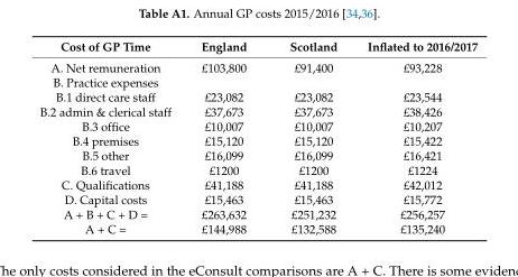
<table><thead><tr><td>Cost of GP Time</td><td>England</td><td>Scotland</td><td>Inflated to 2016/2017</td></tr></thead><tbody><tr><td>A. Net remuneration</td><td>£103,800</td><td>£91,400</td><td>£93,228</td></tr><tr><td colspan="4">B. Practice expenses</td></tr><tr><td>B.1 direct care staff</td><td>£23,082</td><td>£23,082</td><td>£23,544</td></tr><tr><td>B.2 admin &amp; clerical staff</td><td>£37,673</td><td>£37,673</td><td>£38,426</td></tr><tr><td>B.3 office</td><td>£10,007</td><td>£10,007</td><td>£10,207</td></tr><tr><td>B.4 premises</td><td>£15,120</td><td>£15,120</td><td>£15,422</td></tr><tr><td>B.5 other</td><td>£16,099</td><td>£16,099</td><td>£16,421</td></tr><tr><td>B.6 travel</td><td>£1200</td><td>£1200</td><td>£1224</td></tr><tr><td>C. Qualifications</td><td>£41,188</td><td>£41,188</td><td>£42,012</td></tr><tr><td>D. Capital costs</td><td>£15,463</td><td>£15,463</td><td>£15,772</td></tr><tr><td>A + B + C + D =</td><td>£263,632</td><td>£251,232</td><td>£256,257</td></tr><tr><td>A + C =</td><td>£144,988</td><td>£132,588</td><td>£135,240</td></tr></tbody></table>